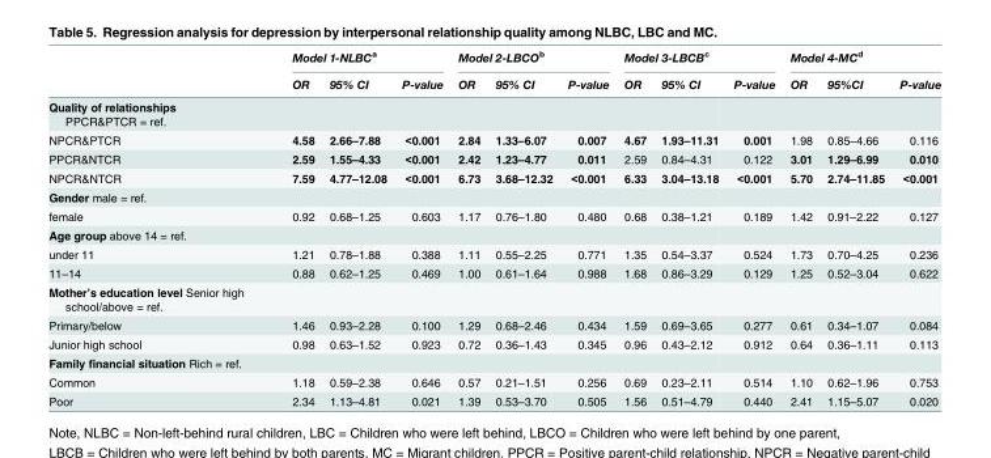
<table><thead><tr><td rowspan="2"></td><td colspan="3">Model 1-NLBC<sup>a</sup></td><td colspan="3">Model 2-LBCO<sup>b</sup></td><td colspan="3">Model 3-LBCB<sup>c</sup></td><td colspan="3">Model 4-MC<sup>d</sup></td></tr><tr><td>OR</td><td>95% CI</td><td>P-value</td><td>OR</td><td>95% CI</td><td>P-value</td><td>OR</td><td>95% CI</td><td>P-value</td><td>OR</td><td>95%CI</td><td>P-value</td></tr></thead><tbody><tr><td colspan="13">Quality of relationships PPCR&amp;PTCR = ref.</td></tr><tr><td>NPCR&amp;PTCR</td><td>4.58</td><td>2.66–7.88</td><td>&lt;0.001</td><td>2.84</td><td>1.33–6.07</td><td>0.007</td><td>4.67</td><td>1.93–11.31</td><td>0.001</td><td>1.98</td><td>0.85–4.66</td><td>0.116</td></tr><tr><td>PPCR&amp;NTCR</td><td>2.59</td><td>1.55–4.33</td><td>&lt;0.001</td><td>2.42</td><td>1.23–4.77</td><td>0.011</td><td>2.59</td><td>0.84–4.31</td><td>0.122</td><td>3.01</td><td>1.29–6.99</td><td>0.010</td></tr><tr><td>NPCR&amp;NTCR</td><td>7.59</td><td>4.77–12.08</td><td>&lt;0.001</td><td>6.73</td><td>3.68–12.32</td><td>&lt;0.001</td><td>6.33</td><td>3.04–13.18</td><td>&lt;0.001</td><td>5.70</td><td>2.74–11.85</td><td>&lt;0.001</td></tr><tr><td colspan="13">Gender male = ref.</td></tr><tr><td>female</td><td>0.92</td><td>0.68–1.25</td><td>0.603</td><td>1.17</td><td>0.76–1.80</td><td>0.480</td><td>0.68</td><td>0.38–1.21</td><td>0.189</td><td>1.42</td><td>0.91–2.22</td><td>0.127</td></tr><tr><td colspan="13">Age group above 14 = ref.</td></tr><tr><td>under 11</td><td>1.21</td><td>0.78–1.88</td><td>0.388</td><td>1.11</td><td>0.55–2.25</td><td>0.771</td><td>1.35</td><td>0.54–3.37</td><td>0.524</td><td>1.73</td><td>0.70–4.25</td><td>0.236</td></tr><tr><td>11–14</td><td>0.88</td><td>0.62–1.25</td><td>0.469</td><td>1.00</td><td>0.61–1.64</td><td>0.988</td><td>1.68</td><td>0.86–3.29</td><td>0.129</td><td>1.25</td><td>0.52–3.04</td><td>0.622</td></tr><tr><td colspan="13">Mother’s education level Senior high school/above = ref.</td></tr><tr><td>Primary/below</td><td>1.46</td><td>0.93–2.28</td><td>0.100</td><td>1.29</td><td>0.68–2.46</td><td>0.434</td><td>1.59</td><td>0.69–3.65</td><td>0.277</td><td>0.61</td><td>0.34–1.07</td><td>0.084</td></tr><tr><td>Junior high school</td><td>0.98</td><td>0.63–1.52</td><td>0.923</td><td>0.72</td><td>0.36–1.43</td><td>0.345</td><td>0.96</td><td>0.43–2.12</td><td>0.912</td><td>0.64</td><td>0.36–1.11</td><td>0.113</td></tr><tr><td colspan="13">Family financial situation Rich = ref.</td></tr><tr><td>Common</td><td>1.18</td><td>0.59–2.38</td><td>0.646</td><td>0.57</td><td>0.21–1.51</td><td>0.256</td><td>0.69</td><td>0.23–2.11</td><td>0.514</td><td>1.10</td><td>0.62–1.96</td><td>0.753</td></tr><tr><td>Poor</td><td>2.34</td><td>1.13–4.81</td><td>0.021</td><td>1.39</td><td>0.53–3.70</td><td>0.505</td><td>1.56</td><td>0.51–4.79</td><td>0.440</td><td>2.41</td><td>1.15–5.07</td><td>0.020</td></tr></tbody></table>